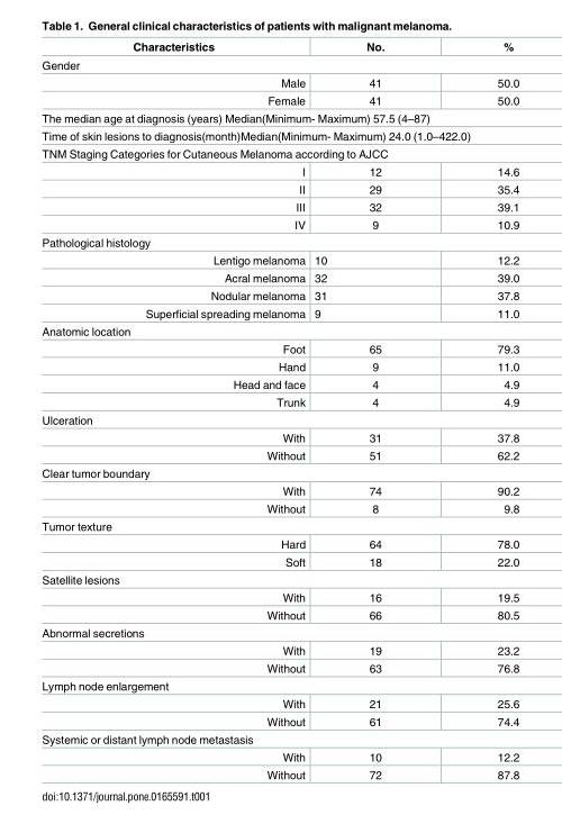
<table><thead><tr><td>Characteristics</td><td>No.</td><td>%</td></tr></thead><tbody><tr><td colspan="3">Gender</td></tr><tr><td>Male</td><td>41</td><td>50.0</td></tr><tr><td>Female</td><td>41</td><td>50.0</td></tr><tr><td colspan="3">The median age at diagnosis (years) Median(Minimum- Maximum) 57.5 (4–87)</td></tr><tr><td colspan="3">Time of skin lesions to diagnosis(month)Median(Minimum- Maximum) 24.0 (1.0–422.0)</td></tr><tr><td colspan="3">TNM Staging Categories for Cutaneous Melanoma according to AJCC</td></tr><tr><td>I</td><td>12</td><td>14.6</td></tr><tr><td>II</td><td>29</td><td>35.4</td></tr><tr><td>III</td><td>32</td><td>39.1</td></tr><tr><td>IV</td><td>9</td><td>10.9</td></tr><tr><td colspan="3">Pathological histology</td></tr><tr><td>Lentigo melanoma</td><td>10</td><td>12.2</td></tr><tr><td>Acral melanoma</td><td>32</td><td>39.0</td></tr><tr><td>Nodular melanoma</td><td>31</td><td>37.8</td></tr><tr><td>Superficial spreading melanoma</td><td>9</td><td>11.0</td></tr><tr><td colspan="3">Anatomic location</td></tr><tr><td>Foot</td><td>65</td><td>79.3</td></tr><tr><td>Hand</td><td>9</td><td>11.0</td></tr><tr><td>Head and face</td><td>4</td><td>4.9</td></tr><tr><td>Trunk</td><td>4</td><td>4.9</td></tr><tr><td colspan="3">Ulceration</td></tr><tr><td>With</td><td>31</td><td>37.8</td></tr><tr><td>Without</td><td>51</td><td>62.2</td></tr><tr><td colspan="3">Clear tumor boundary</td></tr><tr><td>With</td><td>74</td><td>90.2</td></tr><tr><td>Without</td><td>8</td><td>9.8</td></tr><tr><td colspan="3">Tumor texture</td></tr><tr><td>Hard</td><td>64</td><td>78.0</td></tr><tr><td>Soft</td><td>18</td><td>22.0</td></tr><tr><td colspan="3">Satellite lesions</td></tr><tr><td>With</td><td>16</td><td>19.5</td></tr><tr><td>Without</td><td>66</td><td>80.5</td></tr><tr><td colspan="3">Abnormal secretions</td></tr><tr><td>With</td><td>19</td><td>23.2</td></tr><tr><td>Without</td><td>63</td><td>76.8</td></tr><tr><td colspan="3">Lymph node enlargement</td></tr><tr><td>With</td><td>21</td><td>25.6</td></tr><tr><td>Without</td><td>61</td><td>74.4</td></tr><tr><td colspan="3">Systemic or distant lymph node metastasis</td></tr><tr><td>With</td><td>10</td><td>12.2</td></tr><tr><td>Without</td><td>72</td><td>87.8</td></tr></tbody></table>